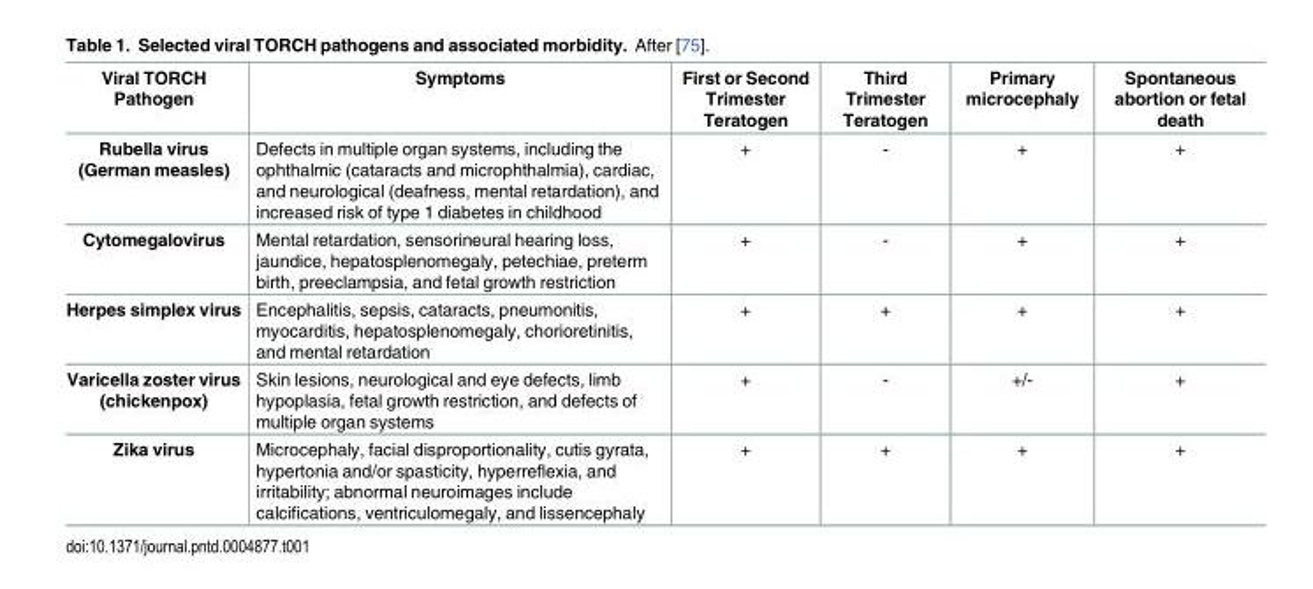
<table><thead><tr><td>Viral TORCH Pathogen</td><td>Symptoms</td><td>First or Second Trimester Teratogen</td><td>Third Trimester Teratogen</td><td>Primary microcephaly</td><td>Spontaneous abortion or fetal death</td></tr></thead><tbody><tr><td>Rubella virus (German measles)</td><td>Defects in multiple organ systems, including the ophthalmic (cataracts and microphthalmia), cardiac, and neurological (deafness, mental retardation), and increased risk of type 1 diabetes in childhood</td><td>+</td><td>-</td><td>+</td><td>+</td></tr><tr><td>Cytomegalovirus</td><td>Mental retardation, sensorineural hearing loss, jaundice, hepatosplenomegaly, petechiae, preterm birth, preeclampsia, and fetal growth restriction</td><td>+</td><td>-</td><td>+</td><td>+</td></tr><tr><td>Herpes simplex virus</td><td>Encephalitis, sepsis, cataracts, pneumonitis, myocarditis, hepatosplenomegaly, chorioretinitis, and mental retardation</td><td>+</td><td>+</td><td>+</td><td>+</td></tr><tr><td>Varicella zoster virus (chickenpox)</td><td>Skin lesions, neurological and eye defects, limb hypoplasia, fetal growth restriction, and defects of multiple organ systems</td><td>+</td><td>-</td><td>+/-</td><td>+</td></tr><tr><td>Zika virus</td><td>Microcephaly, facial disproportionality, cutis gyrata, hypertonia and/or spasticity, hyperreflexia, and irritability; abnormal neuroimages include calcifications, ventriculomegaly, and lissencephaly</td><td>+</td><td>+</td><td>+</td><td>+</td></tr></tbody></table>